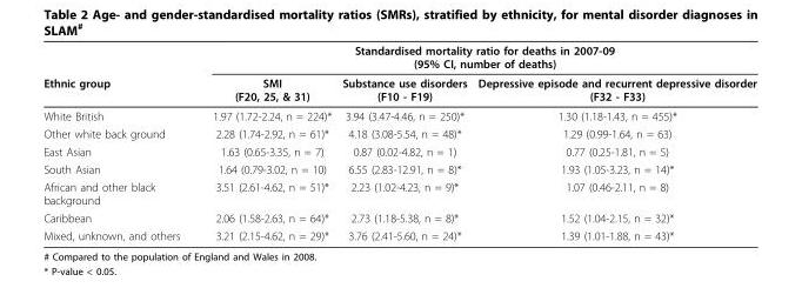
<table><thead><tr><td rowspan="2">Ethnic group</td><td colspan="3">Standardised mortality ratio for deaths in 2007-09 (95% CI, number of deaths)</td></tr><tr><td>SMI (F20, 25, &amp; 31)</td><td>Substance use disorders (F10 - F19)</td><td>Depressive episode and recurrent depressive disorder (F32 - F33)</td></tr></thead><tbody><tr><td>White British</td><td>1.97 (1.72-2.24, n = 224)*</td><td>3.94 (3.47-4.46, n = 250)*</td><td>1.30 (1.18-1.43, n = 455)*</td></tr><tr><td>Other white back ground</td><td>2.28 (1.74-2.92, n = 61)*</td><td>4.18 (3.08-5.54, n = 48)*</td><td>1.29 (0.99-1.64, n = 63)</td></tr><tr><td>East Asian</td><td>1.63 (0.65-3.35, n = 7)</td><td>0.87 (0.02-4.82, n = 1)</td><td>0.77 (0.25-1.81, n = 5)</td></tr><tr><td>South Asian</td><td>1.64 (0.79-3.02, n = 10)</td><td>6.55 (2.83-12.91, n = 8)*</td><td>1.93 (1.05-3.23, n = 14)*</td></tr><tr><td>African and other black background</td><td>3.51 (2.61-4.62, n = 51)*</td><td>2.23 (1.02-4.23, n = 9)*</td><td>1.07 (0.46-2.11, n = 8)</td></tr><tr><td>Caribbean</td><td>2.06 (1.58-2.63, n = 64)*</td><td>2.73 (1.18-5.38, n = 8)*</td><td>1.52 (1.04-2.15, n = 32)*</td></tr><tr><td>Mixed, unknown, and others</td><td>3.21 (2.15-4.62, n = 29)*</td><td>3.76 (2.41-5.60, n = 24)*</td><td>1.39 (1.01-1.88, n = 43)*</td></tr></tbody></table>